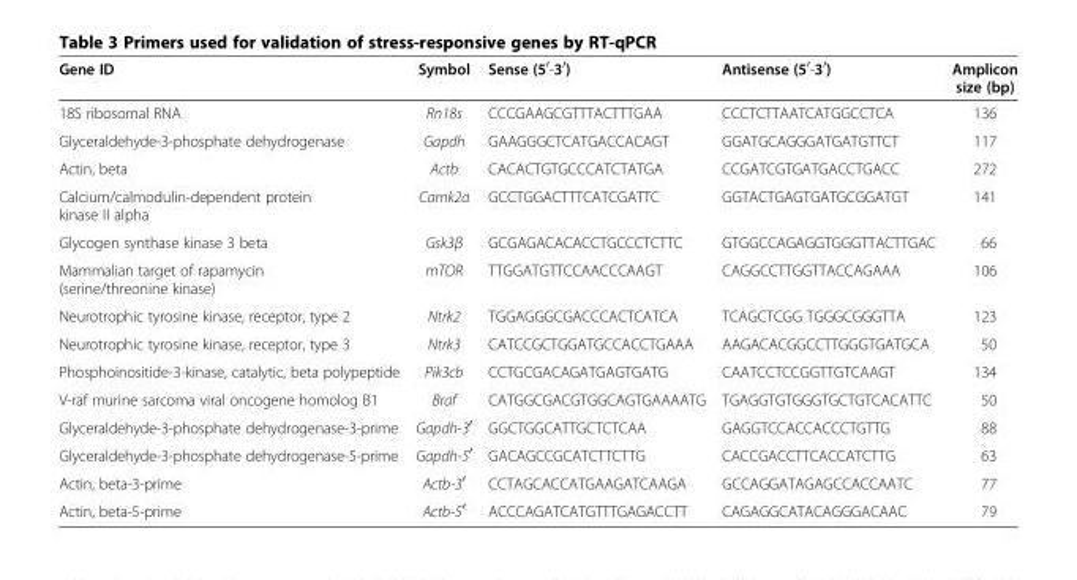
<table><thead><tr><td>Gene ID</td><td>Symbol</td><td>Sense (5<sup>′</sup>-3<sup>′</sup>)</td><td>Antisense (5<sup>′</sup>-3<sup>′</sup>)</td><td>Amplicon size (bp)</td></tr></thead><tbody><tr><td>18S ribosomal RNA</td><td>Rn18s</td><td>CCCGAAGCGTTTACTTTGAA</td><td>CCCTCTTAATCATGGCCTCA</td><td>136</td></tr><tr><td>Glyceraldehyde-3-phosphate dehydrogenase</td><td>Gapdh</td><td>GAAGGGCTCATGACCACAGT</td><td>GGATGCAGGGATGATGTTCT</td><td>117</td></tr><tr><td>Actin, beta</td><td>Actb</td><td>CACACTGTGCCCATCTATGA</td><td>CCGATCGTGATGACCTGACC</td><td>272</td></tr><tr><td>Calcium/calmodulin-dependent protein kinase II alpha</td><td>Camk2a</td><td>GCCTGGACTTTCATCGATTC</td><td>GGTACTGAGTGATGCGGATGT</td><td>141</td></tr><tr><td>Glycogen synthase kinase 3 beta</td><td>Gsk3β</td><td>GCGAGACACACCTGCCCTCTTC</td><td>GTGGCCAGAGGTGGGTTACTTGAC</td><td>66</td></tr><tr><td>Mammalian target of rapamycin (serine/threonine kinase)</td><td>mTOR</td><td>TTGGATGTTCCAACCCAAGT</td><td>CAGGCCTTGGTTACCAGAAA</td><td>106</td></tr><tr><td>Neurotrophic tyrosine kinase, receptor, type 2</td><td>Ntrk2</td><td>TGGAGGGCGACCCACTCATCA</td><td>TCAGCTCGG TGGGCGGGTTA</td><td>123</td></tr><tr><td>Neurotrophic tyrosine kinase, receptor, type 3</td><td>Ntrk3</td><td>CATCCGCTGGATGCCACCTGAAA</td><td>AAGACACGGCCTTGGGTGATGCA</td><td>50</td></tr><tr><td>Phosphoinositide-3-kinase, catalytic, beta polypeptide</td><td>Pik3cb</td><td>CCTGCGACAGATGAGTGATG</td><td>CAATCCTCCGGTTGTCAAGT</td><td>134</td></tr><tr><td>V-raf murine sarcoma viral oncogene homolog B1</td><td>Braf</td><td>CATGGCGACGTGGCAGTGAAAATG</td><td>TGAGGTGTGGGTGCTGTCACATTC</td><td>50</td></tr><tr><td>Glyceraldehyde-3-phosphate dehydrogenase-3-prime</td><td>Gapdh-3<sup>′</sup></td><td>GGCTGGCATTGCTCTCAA</td><td>GAGGTCCACCACCCTGTTG</td><td>88</td></tr><tr><td>Glyceraldehyde-3-phosphate dehydrogenase-5-prime</td><td>Gapdh-5<sup>′</sup></td><td>GACAGCCGCATCTTCTTG</td><td>CACCGACCTTCACCATCTTG</td><td>63</td></tr><tr><td>Actin, beta-3-prime</td><td>Actb-3<sup>′</sup></td><td>CCTAGCACCATGAAGATCAAGA</td><td>GCCAGGATAGAGCCACCAATC</td><td>77</td></tr><tr><td>Actin, beta-5-prime</td><td>Actb-5<sup>′</sup></td><td>ACCCAGATCATGTTTGAGACCTT</td><td>CAGAGGCATACAGGGACAAC</td><td>79</td></tr></tbody></table>